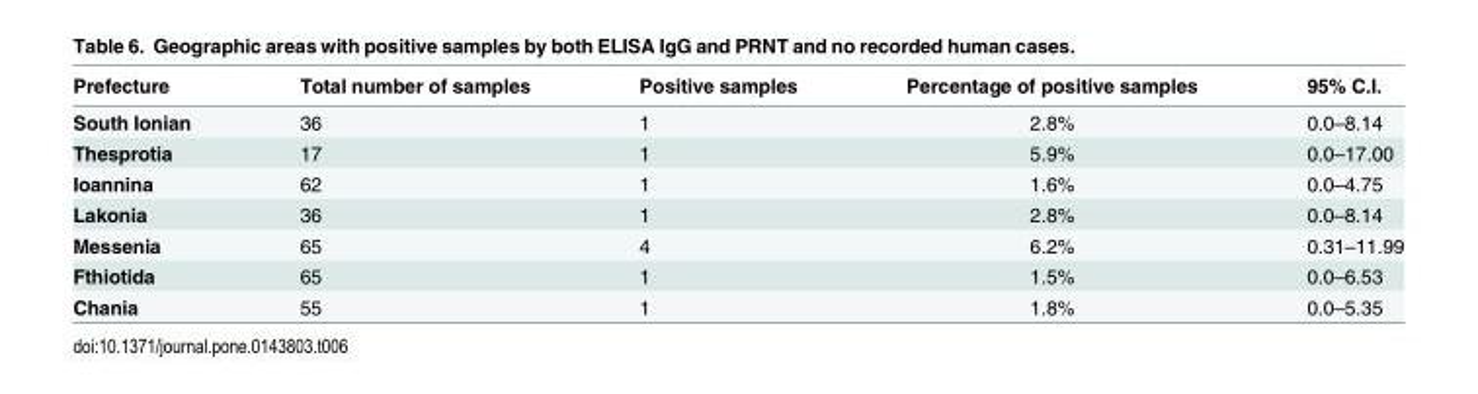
<table><thead><tr><td>Prefecture</td><td>Total number of samples</td><td>Positive samples</td><td>Percentage of positive samples</td><td>95% C.I.</td></tr></thead><tbody><tr><td>South Ionian</td><td>36</td><td>1</td><td>2.8%</td><td>0.0–8.14</td></tr><tr><td>Thesprotia</td><td>17</td><td>1</td><td>5.9%</td><td>0.0–17.00</td></tr><tr><td>Ioannina</td><td>62</td><td>1</td><td>1.6%</td><td>0.0–4.75</td></tr><tr><td>Lakonia</td><td>36</td><td>1</td><td>2.8%</td><td>0.0–8.14</td></tr><tr><td>Messenia</td><td>65</td><td>4</td><td>6.2%</td><td>0.31–11.99</td></tr><tr><td>Fthiotida</td><td>65</td><td>1</td><td>1.5%</td><td>0.0–6.53</td></tr><tr><td>Chania</td><td>55</td><td>1</td><td>1.8%</td><td>0.0–5.35</td></tr></tbody></table>